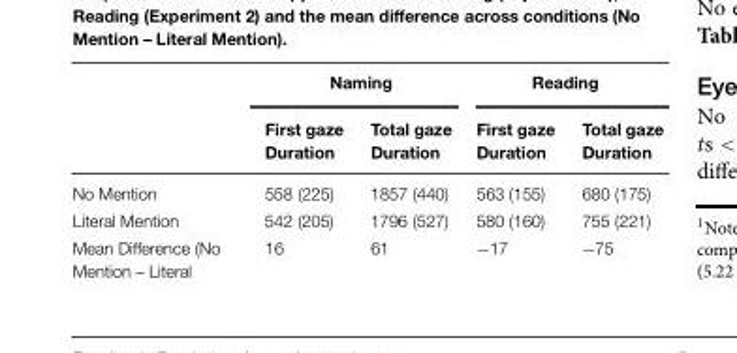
<table><thead><tr><td rowspan="2"></td><td colspan="2">Naming</td><td colspan="2">Reading</td></tr><tr><td>First gaze Duration</td><td>Total gaze Duration</td><td>First gaze Duration</td><td>Total gaze Duration</td></tr></thead><tbody><tr><td>No Mention</td><td>558 (225)</td><td>1857 (440)</td><td>563 (155)</td><td>680 (175)</td></tr><tr><td>Literal Mention</td><td>542 (205)</td><td>1796 (527)</td><td>580 (160)</td><td>755 (221)</td></tr><tr><td>Mean Difference (No Mention – Literal</td><td>16</td><td>61</td><td>−17</td><td>−75</td></tr></tbody></table>